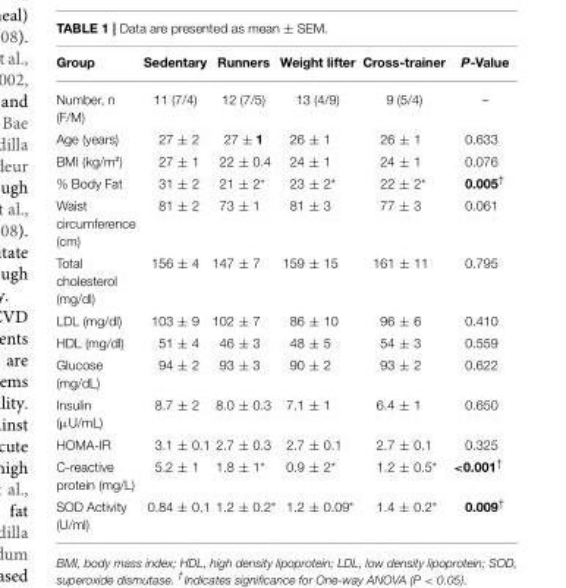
<table><thead><tr><td>Group</td><td>Sedentary</td><td>Runners</td><td>Weight lifter</td><td>Cross-trainer</td><td>P-Value</td></tr></thead><tbody><tr><td>Number, n (F/M)</td><td>11 (7/4)</td><td>12 (7/5)</td><td>13 (4/9)</td><td>9 (5/4)</td><td>–</td></tr><tr><td>Age (years)</td><td>27 ± 2</td><td>27 ± 1</td><td>26 ± 1</td><td>26 ± 1</td><td>0.633</td></tr><tr><td>BMI (kg/m²)</td><td>27 ± 1</td><td>22 ± 0.4</td><td>24 ± 1</td><td>24 ± 1</td><td>0.076</td></tr><tr><td>% Body Fat</td><td>31 ± 2</td><td>21 ± 2*</td><td>23 ± 2*</td><td>22 ± 2*</td><td>0.005<sup>†</sup></td></tr><tr><td>Waist circumference (cm)</td><td>81 ± 2</td><td>73 ± 1</td><td>81 ± 3</td><td>77 ± 3</td><td>0.061</td></tr><tr><td>Total cholesterol (mg/dl)</td><td>156 ± 4</td><td>147 ± 7</td><td>159 ± 15</td><td>161 ± 11</td><td>0.795</td></tr><tr><td>LDL (mg/dl)</td><td>103 ± 9</td><td>102 ± 7</td><td>86 ± 10</td><td>96 ± 6</td><td>0.410</td></tr><tr><td>HDL (mg/dl)</td><td>51 ± 4</td><td>46 ± 3</td><td>48 ± 5</td><td>54 ± 3</td><td>0.559</td></tr><tr><td>Glucose (mg/dL)</td><td>94 ± 2</td><td>93 ± 3</td><td>90 ± 2</td><td>93 ± 2</td><td>0.622</td></tr><tr><td>Insulin (µU/mL)</td><td>8.7 ± 2</td><td>8.0 ± 0.3</td><td>7.1 ± 1</td><td>6.4 ± 1</td><td>0.650</td></tr><tr><td>HOMA-IR</td><td>3.1 ± 0.1</td><td>2.7 ± 0.3</td><td>2.7 ± 0.1</td><td>2.7 ± 0.1</td><td>0.325</td></tr><tr><td>C-reactive protein (mg/L)</td><td>5.2 ± 1</td><td>1.8 ± 1*</td><td>0.9 ± 2*</td><td>1.2 ± 0.5*</td><td>&lt;0.001<sup>†</sup></td></tr><tr><td>SOD Activity (U/ml)</td><td>0.84 ± 0.1</td><td>1.2 ± 0.2*</td><td>1.2 ± 0.09*</td><td>1.4 ± 0.2*</td><td>0.009<sup>†</sup></td></tr></tbody></table>